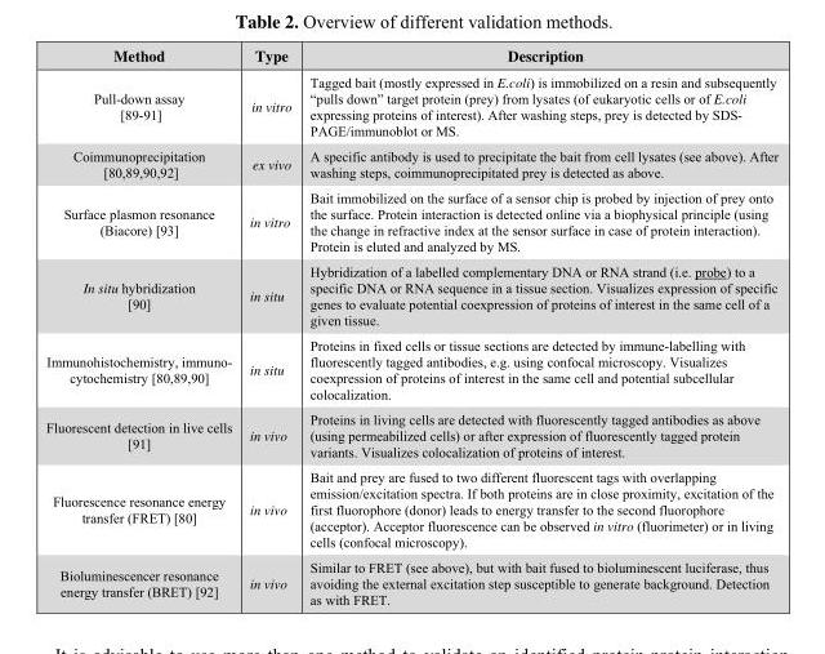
<table><thead><tr><td>Method</td><td>Type</td><td>Description</td></tr></thead><tbody><tr><td>Pull-down assay [89-91]</td><td>in vitro</td><td>Tagged bait (mostly expressed in E.coli) is immobilized on a resin and subsequently “pulls down” target protein (prey) from lysates (of eukaryotic cells or of E.coli expressing proteins of interest). After washing steps, prey is detected by SDS- PAGE/immunoblot or MS.</td></tr><tr><td>Coimmunoprecipitation [80,89,90,92]</td><td>ex vivo</td><td>A specific antibody is used to precipitate the bait from cell lysates (see above). After washing steps, coimmunoprecipitated prey is detected as above.</td></tr><tr><td>Surface plasmon resonance (Biacore) [93]</td><td>in vitro</td><td>Bait immobilized on the surface of a sensor chip is probed by injection of prey onto the surface. Protein interaction is detected online via a biophysical principle (using the change in refractive index at the sensor surface in case of protein interaction). Protein is eluted and analyzed by MS.</td></tr><tr><td>In situ hybridization [90]</td><td>in situ</td><td>Hybridization of a labelled complementary DNA or RNA strand (i.e. probe) to a specific DNA or RNA sequence in a tissue section. Visualizes expression of specific genes to evaluate potential coexpression of proteins of interest in the same cell of a given tissue.</td></tr><tr><td>Immunohistochemistry, immuno- cytochemistry [80,89,90]</td><td>in situ</td><td>Proteins in fixed cells or tissue sections are detected by immune-labelling with fluorescently tagged antibodies, e.g. using confocal microscopy. Visualizes coexpression of proteins of interest in the same cell and potential subcellular colocalization.</td></tr><tr><td>Fluorescent detection in live cells [91]</td><td>in vivo</td><td>Proteins in living cells are detected with fluorescently tagged antibodies as above (using permeabilized cells) or after expression of fluorescently tagged protein variants. Visualizes colocalization of proteins of interest.</td></tr><tr><td>Fluorescence resonance energy transfer (FRET) [80]</td><td>in vivo</td><td>Bait and prey are fused to two different fluorescent tags with overlapping emission/excitation spectra. If both proteins are in close proximity, excitation of the first fluorophore (donor) leads to energy transfer to the second fluorophore (acceptor). Acceptor fluorescence can be observed in vitro (fluorimeter) or in living cells (confocal microscopy).</td></tr><tr><td>Bioluminescencer resonance energy transfer (BRET) [92]</td><td>in vivo</td><td>Similar to FRET (see above), but with bait fused to bioluminescent luciferase, thus avoiding the external excitation step susceptible to generate background. Detection as with FRET.</td></tr></tbody></table>